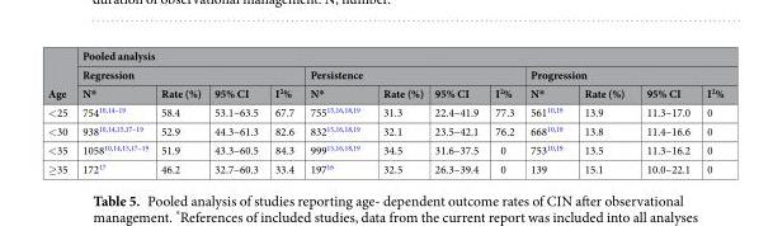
<table><thead><tr><td rowspan="3">Age</td><td colspan="12">Pooled analysis</td></tr><tr><td colspan="4">Regression</td><td colspan="4">Persistence</td><td colspan="4">Progression</td></tr><tr><td>N*</td><td>Rate (%)</td><td>95% CI</td><td>I<sup>2</sup>%</td><td>N*</td><td>Rate (%)</td><td>95% CI</td><td>I<sup>2</sup>%</td><td>N*</td><td>Rate (%)</td><td>95% CI</td><td>I<sup>2</sup>%</td></tr></thead><tbody><tr><td>&lt;25</td><td>754<sup>10,14–19</sup></td><td>58.4</td><td>53.1–63.5</td><td>67.7</td><td>755<sup>15,16,18,19</sup></td><td>31.3</td><td>22.4–41.9</td><td>77.3</td><td>561<sup>10,19</sup></td><td>13.9</td><td>11.3–17.0</td><td>0</td></tr><tr><td>&lt;30</td><td>938<sup>10,14,15,17–19</sup></td><td>52.9</td><td>44.3–61.3</td><td>82.6</td><td>832<sup>15,16,18,19</sup></td><td>32.1</td><td>23.5–42.1</td><td>76.2</td><td>668<sup>10,19</sup></td><td>13.8</td><td>11.4–16.6</td><td>0</td></tr><tr><td>&lt;35</td><td>1058<sup>10,14,15,17–19</sup></td><td>51.9</td><td>43.3–60.5</td><td>84.3</td><td>999<sup>15,16,18,19</sup></td><td>34.5</td><td>31.6–37.5</td><td>0</td><td>753<sup>10,19</sup></td><td>13.5</td><td>11.3–16.2</td><td>0</td></tr><tr><td>≥35</td><td>172<sup>17</sup></td><td>46.2</td><td>32.7–60.3</td><td>33.4</td><td>197<sup>16</sup></td><td>32.5</td><td>26.3–39.4</td><td>0</td><td>139</td><td>15.1</td><td>10.0–22.1</td><td>0</td></tr></tbody></table>